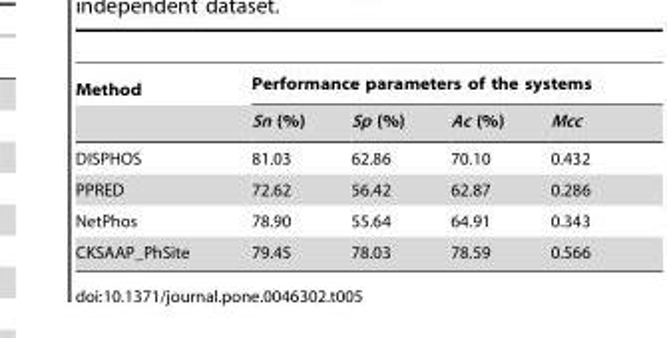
<table><thead><tr><td rowspan="2">Method</td><td colspan="4">Performance parameters of the systems</td></tr><tr><td>Sn (%)</td><td>Sp (%)</td><td>Ac (%)</td><td>Mcc</td></tr></thead><tbody><tr><td>DISPHOS</td><td>81.03</td><td>62.86</td><td>70.10</td><td>0.432</td></tr><tr><td>PPRED</td><td>72.62</td><td>56.42</td><td>62.87</td><td>0.286</td></tr><tr><td>NetPhos</td><td>78.90</td><td>55.64</td><td>64.91</td><td>0.343</td></tr><tr><td>CKSAAP_PhSite</td><td>79.45</td><td>78.03</td><td>78.59</td><td>0.566</td></tr></tbody></table>